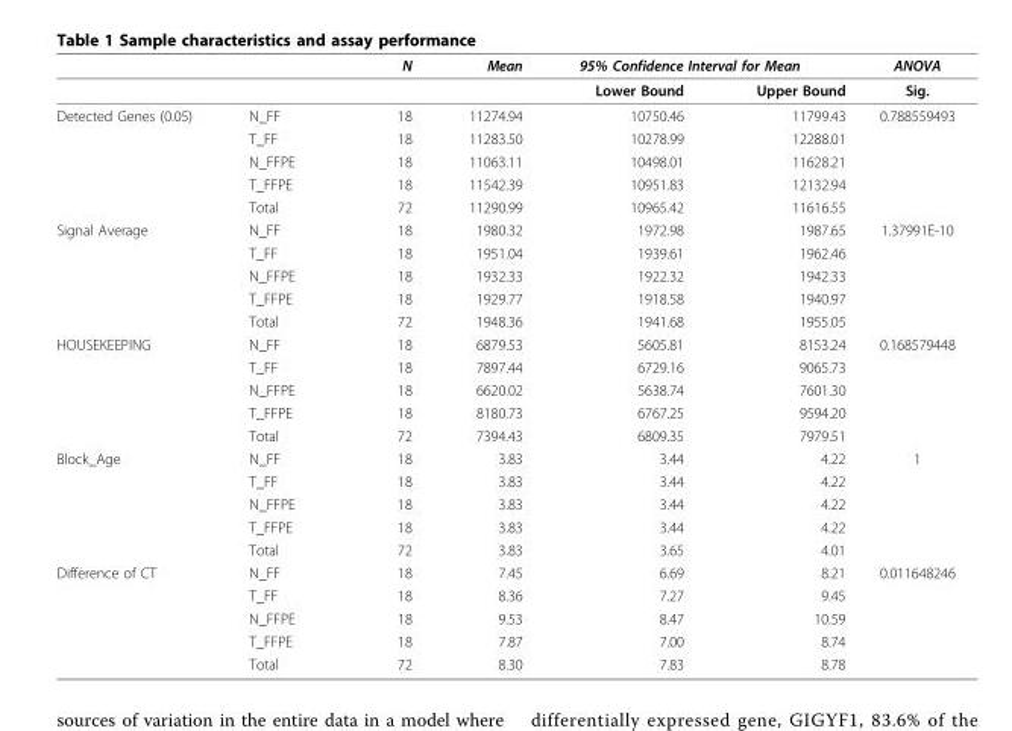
<table><thead><tr><td rowspan="2"></td><td rowspan="2"></td><td rowspan="2">N</td><td rowspan="2">Mean</td><td colspan="2">95% Confidence Interval for Mean</td><td rowspan="2">ANOVA Sig.</td></tr><tr><td>Lower Bound</td><td>Upper Bound</td></tr></thead><tbody><tr><td rowspan="5">Detected Genes (0.05)</td><td>N_FF</td><td>18</td><td>11274.94</td><td>10750.46</td><td>11799.43</td><td>0.788559493</td></tr><tr><td>T_FF</td><td>18</td><td>11283.50</td><td>10278.99</td><td>12288.01</td><td></td></tr><tr><td>N_FFPE</td><td>18</td><td>11063.11</td><td>10498.01</td><td>11628.21</td><td></td></tr><tr><td>T_FFPE</td><td>18</td><td>11542.39</td><td>10951.83</td><td>12132.94</td><td></td></tr><tr><td>Total</td><td>72</td><td>11290.99</td><td>10965.42</td><td>11616.55</td><td></td></tr><tr><td rowspan="5">Signal Average</td><td>N_FF</td><td>18</td><td>1980.32</td><td>1972.98</td><td>1987.65</td><td>1.37991E-10</td></tr><tr><td>T_FF</td><td>18</td><td>1951.04</td><td>1939.61</td><td>1962.46</td><td></td></tr><tr><td>N_FFPE</td><td>18</td><td>1932.33</td><td>1922.32</td><td>1942.33</td><td></td></tr><tr><td>T_FFPE</td><td>18</td><td>1929.77</td><td>1918.58</td><td>1940.97</td><td></td></tr><tr><td>Total</td><td>72</td><td>1948.36</td><td>1941.68</td><td>1955.05</td><td></td></tr><tr><td rowspan="5">HOUSEKEEPING</td><td>N_FF</td><td>18</td><td>6879.53</td><td>5605.81</td><td>8153.24</td><td>0.168579448</td></tr><tr><td>T_FF</td><td>18</td><td>7897.44</td><td>6729.16</td><td>9065.73</td><td></td></tr><tr><td>N_FFPE</td><td>18</td><td>6620.02</td><td>5638.74</td><td>7601.30</td><td></td></tr><tr><td>T_FFPE</td><td>18</td><td>8180.73</td><td>6767.25</td><td>9594.20</td><td></td></tr><tr><td>Total</td><td>72</td><td>7394.43</td><td>6809.35</td><td>7979.51</td><td></td></tr><tr><td rowspan="5">Block_Age</td><td>N_FF</td><td>18</td><td>3.83</td><td>3.44</td><td>4.22</td><td>1</td></tr><tr><td>T_FF</td><td>18</td><td>3.83</td><td>3.44</td><td>4.22</td><td></td></tr><tr><td>N_FFPE</td><td>18</td><td>3.83</td><td>3.44</td><td>4.22</td><td></td></tr><tr><td>T_FFPE</td><td>18</td><td>3.83</td><td>3.44</td><td>4.22</td><td></td></tr><tr><td>Total</td><td>72</td><td>3.83</td><td>3.65</td><td>4.01</td><td></td></tr><tr><td rowspan="5">Difference of CT</td><td>N_FF</td><td>18</td><td>7.45</td><td>6.69</td><td>8.21</td><td>0.011648246</td></tr><tr><td>T_FF</td><td>18</td><td>8.36</td><td>7.27</td><td>9.45</td><td></td></tr><tr><td>N_FFPE</td><td>18</td><td>9.53</td><td>8.47</td><td>10.59</td><td></td></tr><tr><td>T_FFPE</td><td>18</td><td>7.87</td><td>7.00</td><td>8.74</td><td></td></tr><tr><td>Total</td><td>72</td><td>8.30</td><td>7.83</td><td>8.78</td><td></td></tr></tbody></table>